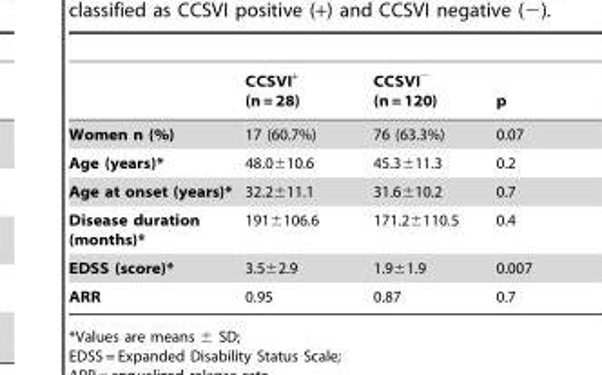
<table><thead><tr><td></td><td>CCSVI<sup>+</sup> (n = 28)</td><td>CCSVI<sup>−</sup> (n = 120)</td><td>p</td></tr></thead><tbody><tr><td>Women n (%)</td><td>17 (60.7%)</td><td>76 (63.3%)</td><td>0.07</td></tr><tr><td>Age (years)*</td><td>48.0±10.6</td><td>45.3±11.3</td><td>0.2</td></tr><tr><td>Age at onset (years)*</td><td>32.2±11.1</td><td>31.6±10.2</td><td>0.7</td></tr><tr><td>Disease duration (months)*</td><td>191±106.6</td><td>171.2±110.5</td><td>0.4</td></tr><tr><td>EDSS (score)*</td><td>3.5±2.9</td><td>1.9±1.9</td><td>0.007</td></tr><tr><td>ARR</td><td>0.95</td><td>0.87</td><td>0.7</td></tr></tbody></table>